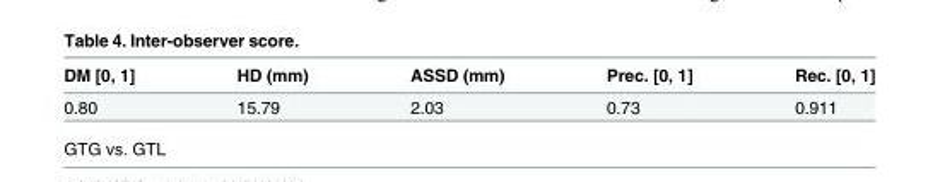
<table><thead><tr><td>DM [0, 1]</td><td>HD (mm)</td><td>ASSD (mm)</td><td>Prec. [0, 1]</td><td>Rec. [0, 1]</td></tr></thead><tbody><tr><td>0.80</td><td>15.79</td><td>2.03</td><td>0.73</td><td>0.911</td></tr></tbody></table>